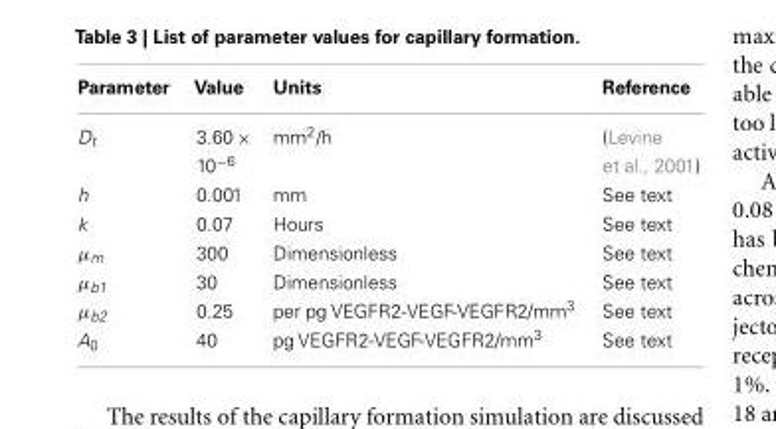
<table><thead><tr><td>Parameter</td><td>Value</td><td>Units</td><td>Reference</td></tr></thead><tbody><tr><td>D<sub>t</sub></td><td>3.60 × 10<sup>−6</sup></td><td>mm<sup>2</sup>/h</td><td>(Levine et al., 2001)</td></tr><tr><td>h</td><td>0.001</td><td>mm</td><td>See text</td></tr><tr><td>k</td><td>0.07</td><td>Hours</td><td>See text</td></tr><tr><td>µ<sub>m</sub></td><td>300</td><td>Dimensionless</td><td>See text</td></tr><tr><td>µ<sub>b1</sub></td><td>30</td><td>Dimensionless</td><td>See text</td></tr><tr><td>µ<sub>b2</sub></td><td>0.25</td><td>per pg VEGFR2-VEGF-VEGFR2/mm<sup>3</sup></td><td>See text</td></tr><tr><td>A<sub>0</sub></td><td>40</td><td>pg VEGFR2-VEGF-VEGFR2/mm<sup>3</sup></td><td>See text</td></tr></tbody></table>